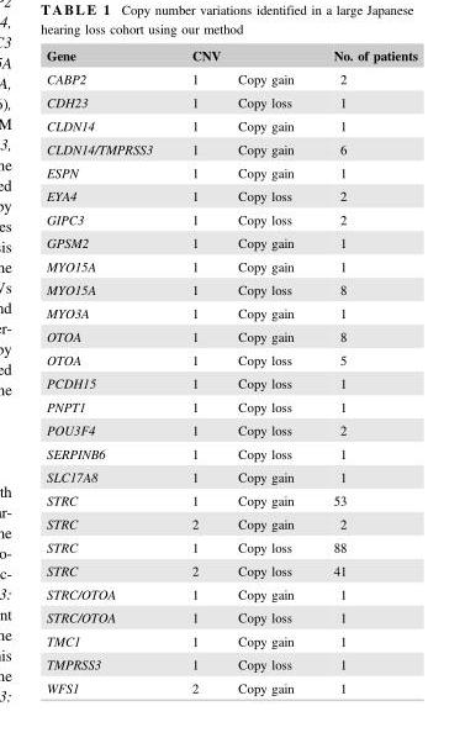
<table><thead><tr><td rowspan="2">Gene CABP2</td><td colspan="2">CNV</td><td rowspan="2">No. of patients 2</td></tr><tr><td>1</td><td>Copy gain</td></tr></thead><tbody><tr><td>CDH23</td><td>1</td><td>Copy loss</td><td>1</td></tr><tr><td>CLDN14</td><td>1</td><td>Copy gain</td><td>1</td></tr><tr><td>CLDN14/TMPRSS3</td><td>1</td><td>Copy gain</td><td>6</td></tr><tr><td>ESPN</td><td>1</td><td>Copy gain</td><td>1</td></tr><tr><td>EYA4</td><td>1</td><td>Copy loss</td><td>2</td></tr><tr><td>GIPC3</td><td>1</td><td>Copy loss</td><td>2</td></tr><tr><td>GPSM2</td><td>1</td><td>Copy gain</td><td>1</td></tr><tr><td>MYO15A</td><td>1</td><td>Copy gain</td><td>1</td></tr><tr><td>MYO15A</td><td>1</td><td>Copy loss</td><td>8</td></tr><tr><td>MYO3A</td><td>1</td><td>Copy gain</td><td>1</td></tr><tr><td>OTOA</td><td>1</td><td>Copy gain</td><td>8</td></tr><tr><td>OTOA</td><td>1</td><td>Copy loss</td><td>5</td></tr><tr><td>PCDH15</td><td>1</td><td>Copy loss</td><td>1</td></tr><tr><td>PNPT1</td><td>1</td><td>Copy loss</td><td>1</td></tr><tr><td>POU3F4</td><td>1</td><td>Copy loss</td><td>2</td></tr><tr><td>SERPINB6</td><td>1</td><td>Copy loss</td><td>1</td></tr><tr><td>SLC17A8</td><td>1</td><td>Copy gain</td><td>1</td></tr><tr><td>STRC</td><td>1</td><td>Copy gain</td><td>53</td></tr><tr><td>STRC</td><td>2</td><td>Copy gain</td><td>2</td></tr><tr><td>STRC</td><td>1</td><td>Copy loss</td><td>88</td></tr><tr><td>STRC</td><td>2</td><td>Copy loss</td><td>41</td></tr><tr><td>STRC/OTOA</td><td>1</td><td>Copy gain</td><td>1</td></tr><tr><td>STRC/OTOA</td><td>1</td><td>Copy loss</td><td>1</td></tr><tr><td>TMC1</td><td>1</td><td>Copy gain</td><td>1</td></tr><tr><td>TMPRSS3</td><td>1</td><td>Copy loss</td><td>1</td></tr><tr><td>WFS1</td><td>2</td><td>Copy gain</td><td>1</td></tr></tbody></table>